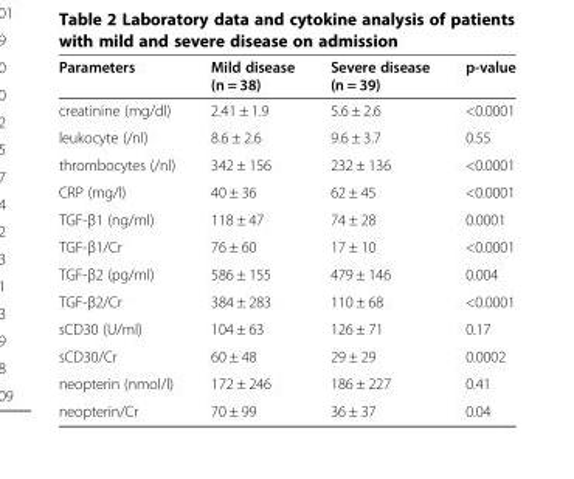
<table><thead><tr><td>Parameters</td><td>Mild disease (n = 38)</td><td>Severe disease (n = 39)</td><td>p-value</td></tr></thead><tbody><tr><td>creatinine (mg/dl)</td><td>2.41 ± 1.9</td><td>5.6 ± 2.6</td><td>&lt;0.0001</td></tr><tr><td>leukocyte (/nl)</td><td>8.6 ± 2.6</td><td>9.6 ± 3.7</td><td>0.55</td></tr><tr><td>thrombocytes (/nl)</td><td>342 ± 156</td><td>232 ± 136</td><td>&lt;0.0001</td></tr><tr><td>CRP (mg/l)</td><td>40 ± 36</td><td>62 ± 45</td><td>&lt;0.0001</td></tr><tr><td>TGF-β1 (ng/ml)</td><td>118 ± 47</td><td>74 ± 28</td><td>0.0001</td></tr><tr><td>TGF-β1/Cr</td><td>76 ± 60</td><td>17 ± 10</td><td>&lt;0.0001</td></tr><tr><td>TGF-β2 (pg/ml)</td><td>586 ± 155</td><td>479 ± 146</td><td>0.004</td></tr><tr><td>TGF-β2/Cr</td><td>384 ± 283</td><td>110 ± 68</td><td>&lt;0.0001</td></tr><tr><td>sCD30 (U/ml)</td><td>104 ± 63</td><td>126 ± 71</td><td>0.17</td></tr><tr><td>sCD30/Cr</td><td>60 ± 48</td><td>29 ± 29</td><td>0.0002</td></tr><tr><td>neopterin (nmol/l)</td><td>172 ± 246</td><td>186 ± 227</td><td>0.41</td></tr><tr><td>neopterin/Cr</td><td>70 ± 99</td><td>36 ± 37</td><td>0.04</td></tr></tbody></table>